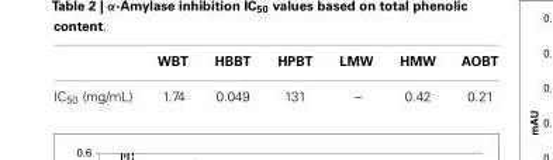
<table><thead><tr><td></td><td>WBT</td><td>HBBT</td><td>HPBT</td><td>LMW</td><td>HMW</td><td>AOBT</td></tr></thead><tbody><tr><td>IC<sub>50</sub> (mg/mL)</td><td>1.74</td><td>0.049</td><td>131</td><td>–</td><td>0.42</td><td>0.21</td></tr></tbody></table>